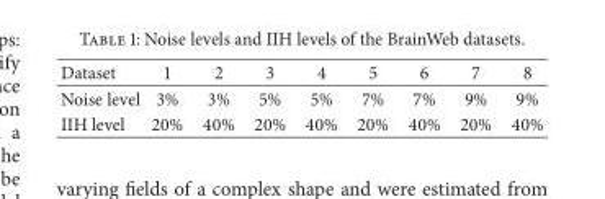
<table><thead><tr><td>Dataset</td><td>1</td><td>2</td><td>3</td><td>4</td><td>5</td><td>6</td><td>7</td><td>8</td></tr></thead><tbody><tr><td>Noise level</td><td>3%</td><td>3%</td><td>5%</td><td>5%</td><td>7%</td><td>7%</td><td>9%</td><td>9%</td></tr><tr><td>IIH level</td><td>20%</td><td>40%</td><td>20%</td><td>40%</td><td>20%</td><td>40%</td><td>20%</td><td>40%</td></tr></tbody></table>